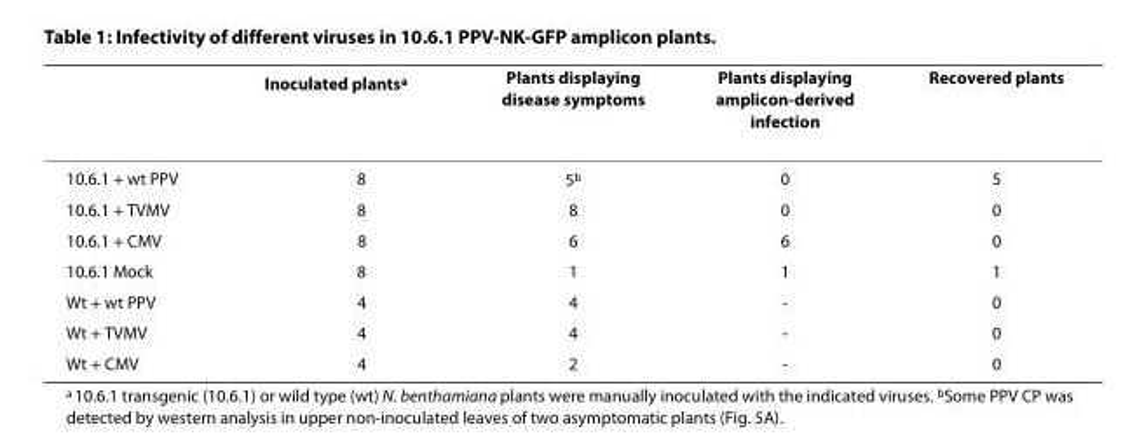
<table><thead><tr><td></td><td>Inoculated plants<sup>a</sup></td><td>Plants displaying disease symptoms</td><td>Plants displaying amplicon-derived infection</td><td>Recovered plants</td></tr></thead><tbody><tr><td>10.6.1 + wt PPV</td><td>8</td><td>5<sup>b</sup></td><td>0</td><td>5</td></tr><tr><td>10.6.1 + TVMV</td><td>8</td><td>8</td><td>0</td><td>0</td></tr><tr><td>10.6.1 + CMV</td><td>8</td><td>6</td><td>6</td><td>0</td></tr><tr><td>10.6.1 Mock</td><td>8</td><td>1</td><td>1</td><td>1</td></tr><tr><td>Wt + wt PPV</td><td>4</td><td>4</td><td>-</td><td>0</td></tr><tr><td>Wt + TVMV</td><td>4</td><td>4</td><td>-</td><td>0</td></tr><tr><td>Wt + CMV</td><td>4</td><td>2</td><td>-</td><td>0</td></tr></tbody></table>